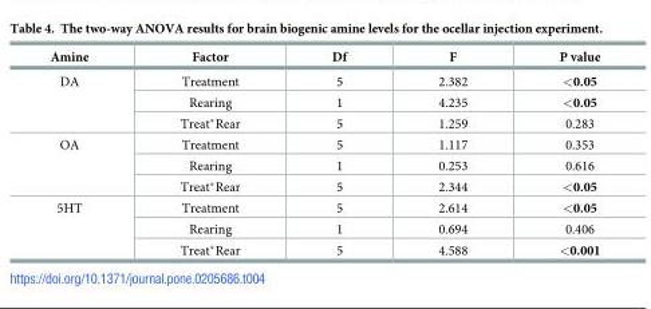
<table><thead><tr><td>Amine</td><td>Factor</td><td>Df</td><td>F</td><td>P value</td></tr></thead><tbody><tr><td rowspan="3">DA</td><td>Treatment</td><td>5</td><td>2.382</td><td>&lt;0.05</td></tr><tr><td>Rearing</td><td>1</td><td>4.235</td><td>&lt;0.05</td></tr><tr><td>Treat*Rear</td><td>5</td><td>1.259</td><td>0.283</td></tr><tr><td rowspan="3">OA</td><td>Treatment</td><td>5</td><td>1.117</td><td>0.353</td></tr><tr><td>Rearing</td><td>1</td><td>0.253</td><td>0.616</td></tr><tr><td>Treat*Rear</td><td>5</td><td>2.344</td><td>&lt;0.05</td></tr><tr><td rowspan="3">5HT</td><td>Treatment</td><td>5</td><td>2.614</td><td>&lt;0.05</td></tr><tr><td>Rearing</td><td>1</td><td>0.694</td><td>0.406</td></tr><tr><td>Treat*Rear</td><td>5</td><td>4.588</td><td>&lt;0.001</td></tr></tbody></table>